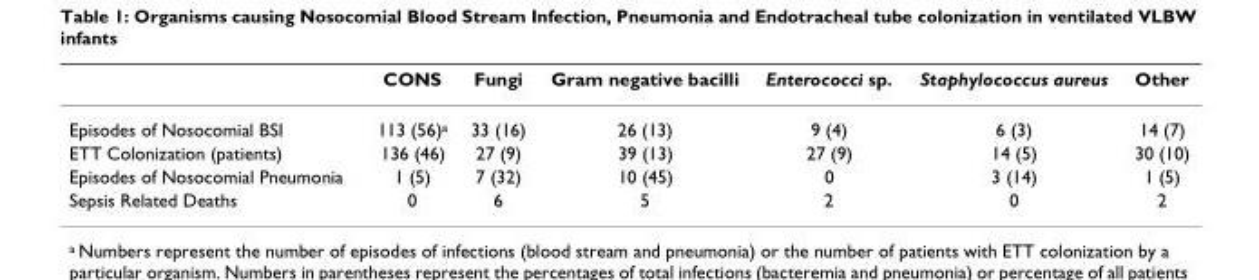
<table><thead><tr><td></td><td>CONS</td><td>Fungi</td><td>Gram negative bacilli</td><td>Enterococci sp.</td><td>Staphylococcus aureus</td><td>Other</td></tr></thead><tbody><tr><td>Episodes of Nosocomial BSI</td><td>113 (56)a</td><td>33 (16)</td><td>26 (13)</td><td>9 (4)</td><td>6 (3)</td><td>14 (7)</td></tr><tr><td>ETT Colonization (patients)</td><td>136 (46)</td><td>27 (9)</td><td>39 (13)</td><td>27 (9)</td><td>14 (5)</td><td>30 (10)</td></tr><tr><td>Episodes of Nosocomial Pneumonia</td><td>1 (5)</td><td>7 (32)</td><td>10 (45)</td><td>0</td><td>3 (14)</td><td>1 (5)</td></tr><tr><td>Sepsis Related Deaths</td><td>0</td><td>6</td><td>5</td><td>2</td><td>0</td><td>2</td></tr></tbody></table>